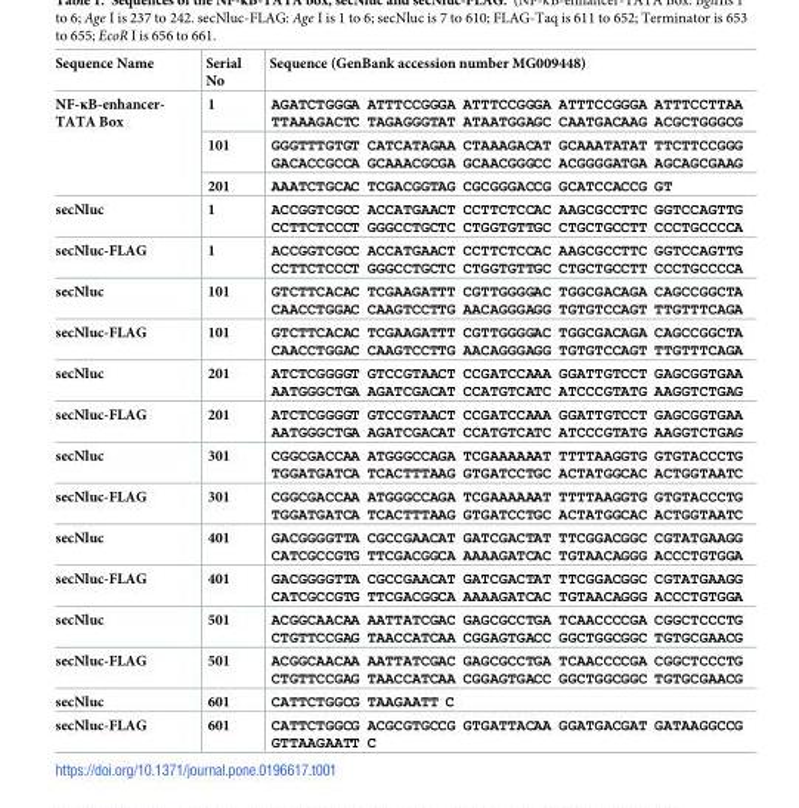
<table><thead><tr><td>Sequence Name</td><td>Serial No</td><td>Sequence (GenBank accession number MG009448)</td></tr></thead><tbody><tr><td rowspan="3">NF-κB-enhancer- TATA Box</td><td>1</td><td>AGATCTGGGA ATTTCCGGGA ATTTCCGGGA ATTTCCGGGA ATTTCCTTAA TTAAAGACTC TAGAGGGTAT ATAATGGAGC CAATGACAAG ACGCTGGGCG</td></tr><tr><td>101</td><td>GGGTTTGTGT CATCATAGAA CTAAAGACAT GCAAATATAT TTCTTCCGGG GACACCGCCA GCAAACGCGA GCAACGGGCC ACGGGGATGA AGCAGCGAAG</td></tr><tr><td>201</td><td>AAATCTGCAC TCGACGGTAG CGCGGGACCG GCATCCACCG GT</td></tr><tr><td>secNluc</td><td>1</td><td>ACCGGTCGCC ACCATGAACT CCTTCTCCAC AAGCGCCTTC GGTCCAGTTG CCTTCTCCCT GGGCCTGCTC CTGGTGTTGC CTGCTGCCTT CCCTGCCCCA</td></tr><tr><td>secNluc-FLAG</td><td>1</td><td>ACCGGTCGCC ACCATGAACT CCTTCTCCAC AAGCGCCTTC GGTCCAGTTG CCTTCTCCCT GGGCCTGCTC CTGGTGTTGC CTGCTGCCTT CCCTGCCCCA</td></tr><tr><td>secNluc</td><td>101</td><td>GTCTTCACAC TCGAAGATTT CGTTGGGGAC TGGCGACAGA CAGCCGGCTA CAACCTGGAC CAAGTCCTTG AACAGGGAGG TGTGTCCAGT TTGTTTCAGA</td></tr><tr><td>secNluc-FLAG</td><td>101</td><td>GTCTTCACAC TCGAAGATTT CGTTGGGGAC TGGCGACAGA CAGCCGGCTA CAACCTGGAC CAAGTCCTTG AACAGGGAGG TGTGTCCAGT TTGTTTCAGA</td></tr><tr><td>secNluc</td><td>201</td><td>ATCTCGGGGT GTCCGTAACT CCGATCCAAA GGATTGTCCT GAGCGGTGAA AATGGGCTGA AGATCGACAT CCATGTCATC ATCCCGTATG AAGGTCTGAG</td></tr><tr><td>secNluc-FLAG</td><td>201</td><td>ATCTCGGGGT GTCCGTAACT CCGATCCAAA GGATTGTCCT GAGCGGTGAA AATGGGCTGA AGATCGACAT CCATGTCATC ATCCCGTATG AAGGTCTGAG</td></tr><tr><td>secNluc</td><td>301</td><td>CGGCGACCAA ATGGGCCAGA TCGAAAAAAT TTTTAAGGTG GTGTACCCTG TGGATGATCA TCACTTTAAG GTGATCCTGC ACTATGGCAC ACTGGTAATC</td></tr><tr><td>secNluc-FLAG</td><td>301</td><td>CGGCGACCAA ATGGGCCAGA TCGAAAAAAT TTTTAAGGTG GTGTACCCTG TGGATGATCA TCACTTTAAG GTGATCCTGC ACTATGGCAC ACTGGTAATC</td></tr><tr><td>secNluc</td><td>401</td><td>GACGGGGTTA CGCCGAACAT GATCGACTAT TTCGGACGGC CGTATGAAGG CATCGCCGTG TTCGACGGCA AAAAGATCAC TGTAACAGGG ACCCTGTGGA</td></tr><tr><td>secNluc-FLAG</td><td>401</td><td>GACGGGGTTA CGCCGAACAT GATCGACTAT TTCGGACGGC CGTATGAAGG CATCGCCGTG TTCGACGGCA AAAAGATCAC TGTAACAGGG ACCCTGTGGA</td></tr><tr><td>secNluc</td><td>501</td><td>ACGGCAACAA AATTATCGAC GAGCGCCTGA TCAACCCCGA CGGCTCCCTG CTGTTCCGAG TAACCATCAA CGGAGTGACC GGCTGGCGGC TGTGCGAACG</td></tr><tr><td>secNluc-FLAG</td><td>501</td><td>ACGGCAACAA AATTATCGAC GAGCGCCTGA TCAACCCCGA CGGCTCCCTG CTGTTCCGAG TAACCATCAA CGGAGTGACC GGCTGGCGGC TGTGCGAACG</td></tr><tr><td>secNluc</td><td>601</td><td>CATTCTGGCG TAAGAATT C</td></tr><tr><td>secNluc-FLAG</td><td>601</td><td>CATTCTGGCG ACGCGTGCCG GTGATTACAA GGATGACGAT GATAAGGCCG GTTAAGAATT C</td></tr></tbody></table>